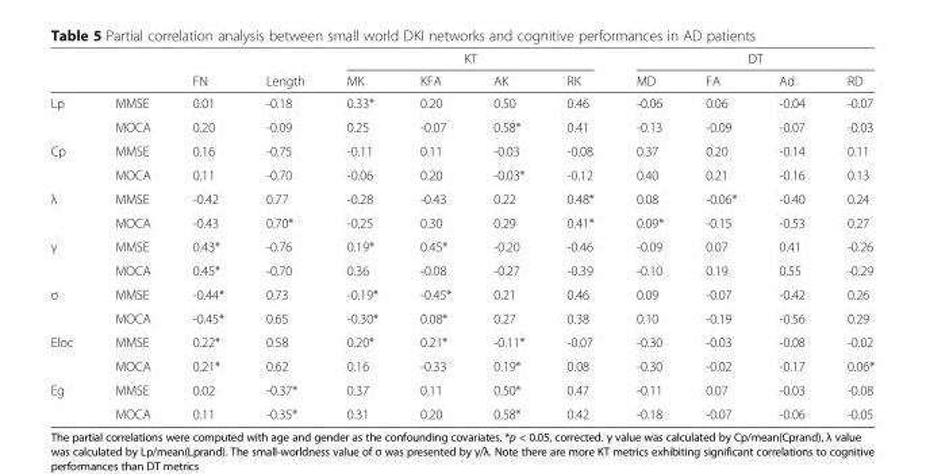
<table><thead><tr><td rowspan="2"></td><td rowspan="2"></td><td rowspan="2">FN</td><td rowspan="2">Length</td><td colspan="4">KT</td><td colspan="4">DT</td></tr><tr><td>MK</td><td>KFA</td><td>AK</td><td>RK</td><td>MD</td><td>FA</td><td>Ad</td><td>RD</td></tr></thead><tbody><tr><td rowspan="2">Lp</td><td>MMSE</td><td>0.01</td><td>-0.18</td><td>0.33*</td><td>0.20</td><td>0.50</td><td>0.46</td><td>-0.06</td><td>0.06</td><td>-0.04</td><td>-0.07</td></tr><tr><td>MOCA</td><td>0.20</td><td>-0.09</td><td>0.25</td><td>-0.07</td><td>0.58*</td><td>0.41</td><td>-0.13</td><td>-0.09</td><td>-0.07</td><td>-0.03</td></tr><tr><td rowspan="2">Cp</td><td>MMSE</td><td>0.16</td><td>-0.75</td><td>-0.11</td><td>0.11</td><td>-0.03</td><td>-0.08</td><td>0.37</td><td>0.20</td><td>-0.14</td><td>0.11</td></tr><tr><td>MOCA</td><td>0.11</td><td>-0.70</td><td>-0.06</td><td>0.20</td><td>-0.03*</td><td>-0.12</td><td>0.40</td><td>0.21</td><td>-0.16</td><td>0.13</td></tr><tr><td rowspan="2">λ</td><td>MMSE</td><td>-0.42</td><td>0.77</td><td>-0.28</td><td>-0.43</td><td>0.22</td><td>0.48*</td><td>0.08</td><td>-0.06*</td><td>-0.40</td><td>0.24</td></tr><tr><td>MOCA</td><td>-0.43</td><td>0.70*</td><td>-0.25</td><td>0.30</td><td>0.29</td><td>0.41*</td><td>0.09*</td><td>-0.15</td><td>-0.53</td><td>0.27</td></tr><tr><td rowspan="2">γ</td><td>MMSE</td><td>0.43*</td><td>-0.76</td><td>0.19*</td><td>0.45*</td><td>-0.20</td><td>-0.46</td><td>-0.09</td><td>0.07</td><td>0.41</td><td>-0.26</td></tr><tr><td>MOCA</td><td>0.45*</td><td>-0.70</td><td>0.36</td><td>-0.08</td><td>-0.27</td><td>-0.39</td><td>-0.10</td><td>0.19</td><td>0.55</td><td>-0.29</td></tr><tr><td rowspan="2">σ</td><td>MMSE</td><td>-0.44*</td><td>0.73</td><td>-0.19*</td><td>-0.45*</td><td>0.21</td><td>0.46</td><td>0.09</td><td>-0.07</td><td>-0.42</td><td>0.26</td></tr><tr><td>MOCA</td><td>-0.45*</td><td>0.65</td><td>-0.30*</td><td>0.08*</td><td>0.27</td><td>0.38</td><td>0.10</td><td>-0.19</td><td>-0.56</td><td>0.29</td></tr><tr><td rowspan="2">Eloc</td><td>MMSE</td><td>0.22*</td><td>0.58</td><td>0.20*</td><td>0.21*</td><td>-0.11*</td><td>-0.07</td><td>-0.30</td><td>-0.03</td><td>-0.08</td><td>-0.02</td></tr><tr><td>MOCA</td><td>0.21*</td><td>0.62</td><td>0.16</td><td>-0.33</td><td>0.19*</td><td>0.08</td><td>-0.30</td><td>-0.02</td><td>-0.17</td><td>0.06*</td></tr><tr><td rowspan="2">Eg</td><td>MMSE</td><td>0.02</td><td>-0.37*</td><td>0.37</td><td>0.11</td><td>0.50*</td><td>0.47</td><td>-0.11</td><td>0.07</td><td>-0.03</td><td>-0.08</td></tr><tr><td>MOCA</td><td>0.11</td><td>-0.35*</td><td>0.31</td><td>0.20</td><td>0.58*</td><td>0.42</td><td>-0.18</td><td>-0.07</td><td>-0.06</td><td>-0.05</td></tr></tbody></table>